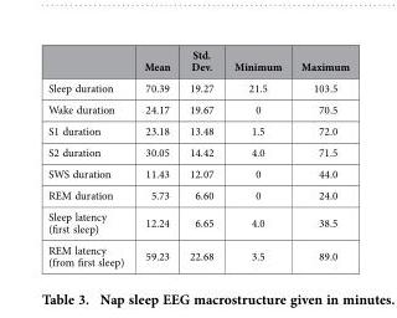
<table><thead><tr><td></td><td>Mean</td><td>Std. Dev.</td><td>Minimum</td><td>Maximum</td></tr></thead><tbody><tr><td>Sleep duration</td><td>70.39</td><td>19.27</td><td>21.5</td><td>103.5</td></tr><tr><td>Wake duration</td><td>24.17</td><td>19.67</td><td>0</td><td>70.5</td></tr><tr><td>S1 duration</td><td>23.18</td><td>13.48</td><td>1.5</td><td>72.0</td></tr><tr><td>S2 duration</td><td>30.05</td><td>14.42</td><td>4.0</td><td>71.5</td></tr><tr><td>SWS duration</td><td>11.43</td><td>12.07</td><td>0</td><td>44.0</td></tr><tr><td>REM duration</td><td>5.73</td><td>6.60</td><td>0</td><td>24.0</td></tr><tr><td>Sleep latency (first sleep)</td><td>12.24</td><td>6.65</td><td>4.0</td><td>38.5</td></tr><tr><td>REM latency (from first sleep)</td><td>59.23</td><td>22.68</td><td>3.5</td><td>89.0</td></tr></tbody></table>